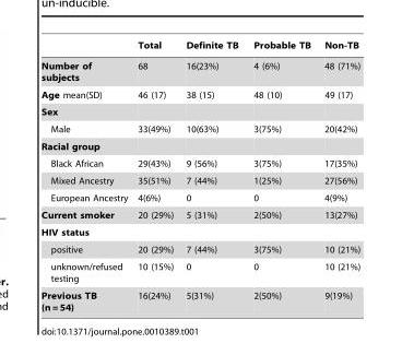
<table><thead><tr><td></td><td>Total</td><td>Definite TB</td><td>Probable TB</td><td>Non-TB</td></tr></thead><tbody><tr><td>Number of subjects</td><td>68</td><td>16(23%)</td><td>4 (6%)</td><td>48 (71%)</td></tr><tr><td>Age mean(SD)</td><td>46 (17)</td><td>38 (15)</td><td>48 (10)</td><td>49 (17)</td></tr><tr><td colspan="5">Sex</td></tr><tr><td>Male</td><td>33(49%)</td><td>10(63%)</td><td>3(75%)</td><td>20(42%)</td></tr><tr><td colspan="5">Racial group</td></tr><tr><td>Black African</td><td>29(43%)</td><td>9 (56%)</td><td>3(75%)</td><td>17(35%)</td></tr><tr><td>Mixed Ancestry</td><td>35(51%)</td><td>7 (44%)</td><td>1(25%)</td><td>27(56%)</td></tr><tr><td>European Ancestry</td><td>4(6%)</td><td>0</td><td>0</td><td>4(9%)</td></tr><tr><td>Current smoker</td><td>20 (29%)</td><td>5 (31%)</td><td>2(50%)</td><td>13(27%)</td></tr><tr><td colspan="5">HIV status</td></tr><tr><td>positive</td><td>20 (29%)</td><td>7 (44%)</td><td>3(75%)</td><td>10 (21%)</td></tr><tr><td>unknown/refused testing</td><td>10 (15%)</td><td>0</td><td>0</td><td>10 (21%)</td></tr><tr><td>Previous TB (n = 54)</td><td>16(24%)</td><td>5(31%)</td><td>2(50%)</td><td>9(19%)</td></tr></tbody></table>